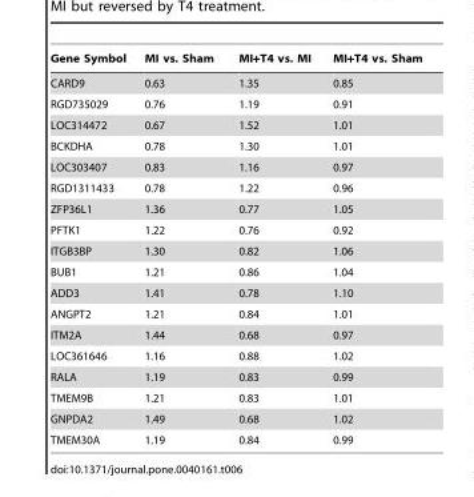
<table><thead><tr><td>Gene Symbol</td><td>MI vs. Sham</td><td>MI+T4 vs. MI</td><td>MI+T4 vs. Sham</td></tr></thead><tbody><tr><td>CARD9</td><td>0.63</td><td>1.35</td><td>0.85</td></tr><tr><td>RGD735029</td><td>0.76</td><td>1.19</td><td>0.91</td></tr><tr><td>LOC314472</td><td>0.67</td><td>1.52</td><td>1.01</td></tr><tr><td>BCKDHA</td><td>0.78</td><td>1.30</td><td>1.01</td></tr><tr><td>LOC303407</td><td>0.83</td><td>1.16</td><td>0.97</td></tr><tr><td>RGD1311433</td><td>0.78</td><td>1.22</td><td>0.96</td></tr><tr><td>ZFP36L1</td><td>1.36</td><td>0.77</td><td>1.05</td></tr><tr><td>PFTK1</td><td>1.22</td><td>0.76</td><td>0.92</td></tr><tr><td>ITGB3BP</td><td>1.30</td><td>0.82</td><td>1.06</td></tr><tr><td>BUB1</td><td>1.21</td><td>0.86</td><td>1.04</td></tr><tr><td>ADD3</td><td>1.41</td><td>0.78</td><td>1.10</td></tr><tr><td>ANGPT2</td><td>1.21</td><td>0.84</td><td>1.01</td></tr><tr><td>ITM2A</td><td>1.44</td><td>0.68</td><td>0.97</td></tr><tr><td>LOC361646</td><td>1.16</td><td>0.88</td><td>1.02</td></tr><tr><td>RALA</td><td>1.19</td><td>0.83</td><td>0.99</td></tr><tr><td>TMEM9B</td><td>1.21</td><td>0.83</td><td>1.01</td></tr><tr><td>GNPDA2</td><td>1.49</td><td>0.68</td><td>1.02</td></tr><tr><td>TMEM30A</td><td>1.19</td><td>0.84</td><td>0.99</td></tr></tbody></table>